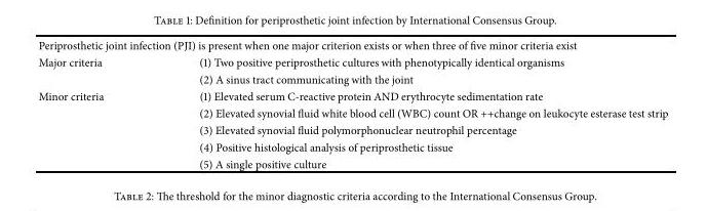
<table><tbody><tr><td colspan="2">Periprosthetic joint infection (PJI) is present when one major criterion exists or when three of five minor criteria exist</td></tr><tr><td rowspan="2">Major criteria</td><td>(1) Two positive periprosthetic cultures with phenotypically identical organisms</td></tr><tr><td>(2) A sinus tract communicating with the joint</td></tr><tr><td rowspan="5">Minor criteria</td><td>(1) Elevated serum C-reactive protein AND erythrocyte sedimentation rate</td></tr><tr><td>(2) Elevated synovial fluid white blood cell (WBC) count OR ++change on leukocyte esterase test strip</td></tr><tr><td>(3) Elevated synovial fluid polymorphonuclear neutrophil percentage</td></tr><tr><td>(4) Positive histological analysis of periprosthetic tissue</td></tr><tr><td>(5) A single positive culture</td></tr></tbody></table>